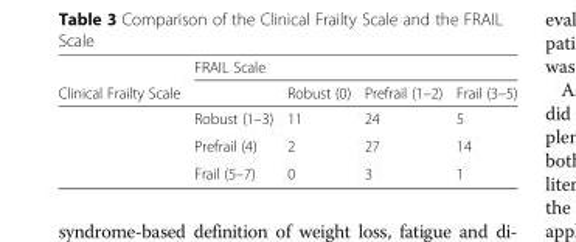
<table><thead><tr><td rowspan="2">Clinical Frailty Scale</td><td colspan="4">FRAIL Scale</td></tr><tr><td></td><td>Robust (0)</td><td>Prefrail (1–2)</td><td>Frail (3–5)</td></tr></thead><tbody><tr><td></td><td>Robust (1–3)</td><td>11</td><td>24</td><td>5</td></tr><tr><td></td><td>Prefrail (4)</td><td>2</td><td>27</td><td>14</td></tr><tr><td></td><td>Frail (5–7)</td><td>0</td><td>3</td><td>1</td></tr></tbody></table>